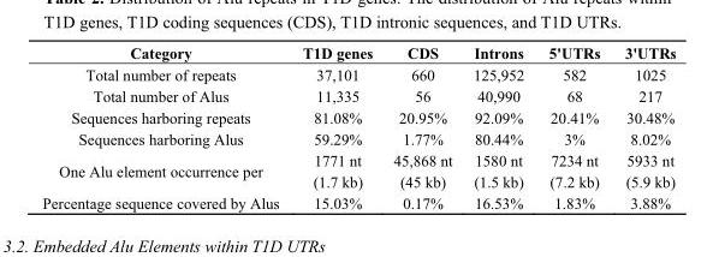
<table><thead><tr><td>Category</td><td>T1D genes</td><td>CDS</td><td>Introns</td><td>5&#x27;UTRs</td><td>3&#x27;UTRs</td></tr></thead><tbody><tr><td>Total number of repeats</td><td>37,101</td><td>660</td><td>125,952</td><td>582</td><td>1025</td></tr><tr><td>Total number of Alus</td><td>11,335</td><td>56</td><td>40,990</td><td>68</td><td>217</td></tr><tr><td>Sequences harboring repeats</td><td>81.08%</td><td>20.95%</td><td>92.09%</td><td>20.41%</td><td>30.48%</td></tr><tr><td>Sequences harboring Alus</td><td>59.29%</td><td>1.77%</td><td>80.44%</td><td>3%</td><td>8.02%</td></tr><tr><td>One Alu element occurrence per</td><td>1771 nt (1.7 kb)</td><td>45,868 nt (45 kb)</td><td>1580 nt (1.5 kb)</td><td>7234 nt (7.2 kb)</td><td>5933 nt (5.9 kb)</td></tr><tr><td>Percentage sequence covered by Alus</td><td>15.03%</td><td>0.17%</td><td>16.53%</td><td>1.83%</td><td>3.88%</td></tr></tbody></table>